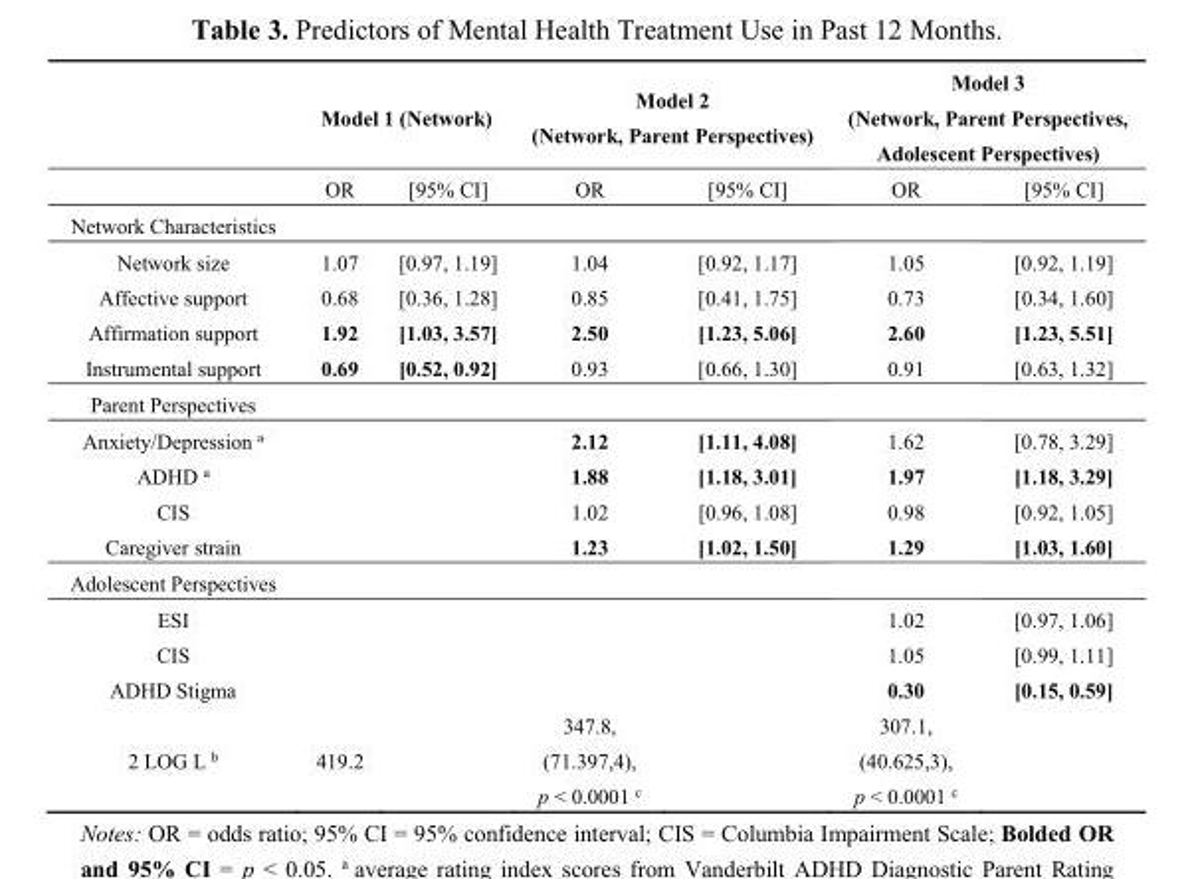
<table><thead><tr><td rowspan="2"></td><td colspan="2">Model 1 (Network)</td><td colspan="2">Model 2 (Network, Parent Perspectives)</td><td colspan="2">Model 3 (Network, Parent Perspectives, Adolescent Perspectives)</td></tr><tr><td>OR</td><td>[95% CI]</td><td>OR</td><td>[95% CI]</td><td>OR</td><td>[95% CI]</td></tr></thead><tbody><tr><td colspan="7">Network Characteristics</td></tr><tr><td>Network size</td><td>1.07</td><td>[0.97, 1.19]</td><td>1.04</td><td>[0.92, 1.17]</td><td>1.05</td><td>[0.92, 1.19]</td></tr><tr><td>Affective support</td><td>0.68</td><td>[0.36, 1.28]</td><td>0.85</td><td>[0.41, 1.75]</td><td>0.73</td><td>[0.34, 1.60]</td></tr><tr><td>Affirmation support</td><td>1.92</td><td>[1.03, 3.57]</td><td>2.50</td><td>[1.23, 5.06]</td><td>2.60</td><td>[1.23, 5.51]</td></tr><tr><td>Instrumental support</td><td>0.69</td><td>[0.52, 0.92]</td><td>0.93</td><td>[0.66, 1.30]</td><td>0.91</td><td>[0.63, 1.32]</td></tr><tr><td colspan="7">Parent Perspectives</td></tr><tr><td>Anxiety/Depression <sup>a</sup></td><td></td><td></td><td>2.12</td><td>[1.11, 4.08]</td><td>1.62</td><td>[0.78, 3.29]</td></tr><tr><td>ADHD <sup>a</sup></td><td></td><td></td><td>1.88</td><td>[1.18, 3.01]</td><td>1.97</td><td>[1.18, 3.29]</td></tr><tr><td>CIS</td><td></td><td></td><td>1.02</td><td>[0.96, 1.08]</td><td>0.98</td><td>[0.92, 1.05]</td></tr><tr><td>Caregiver strain</td><td></td><td></td><td>1.23</td><td>[1.02, 1.50]</td><td>1.29</td><td>[1.03, 1.60]</td></tr><tr><td colspan="7">Adolescent Perspectives</td></tr><tr><td>ESI</td><td></td><td></td><td></td><td></td><td>1.02</td><td>[0.97, 1.06]</td></tr><tr><td>CIS</td><td></td><td></td><td></td><td></td><td>1.05</td><td>[0.99, 1.11]</td></tr><tr><td>ADHD Stigma</td><td></td><td></td><td></td><td></td><td>0.30</td><td>[0.15, 0.59]</td></tr><tr><td>2 LOG L <sup>b</sup></td><td>419.2</td><td></td><td>347.8, (71.397,4), p &lt; 0.0001 <sup>c</sup></td><td></td><td>307.1, (40.625,3), p &lt; 0.0001 <sup>c</sup></td><td></td></tr></tbody></table>